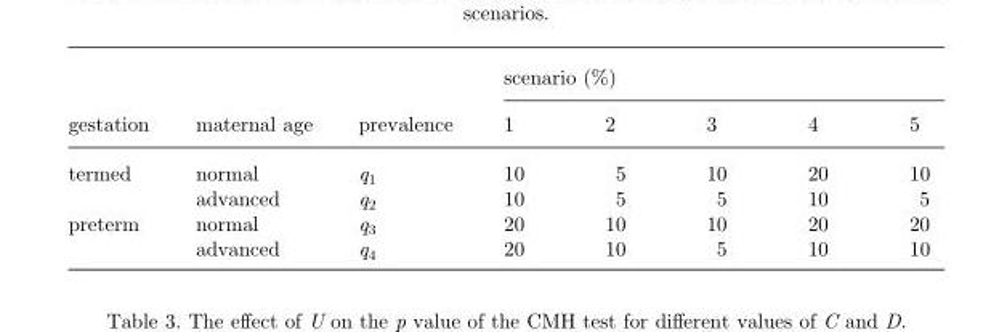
<table><thead><tr><td rowspan="2">gestation</td><td rowspan="2">maternal age</td><td rowspan="2">prevalence</td><td colspan="5">scenario (%)</td></tr><tr><td>1</td><td>2</td><td>3</td><td>4</td><td>5</td></tr></thead><tbody><tr><td rowspan="2">termed</td><td>normal</td><td>q<sub>1</sub></td><td>10</td><td>5</td><td>10</td><td>20</td><td>10</td></tr><tr><td>advanced</td><td>q<sub>2</sub></td><td>10</td><td>5</td><td>5</td><td>10</td><td>5</td></tr><tr><td rowspan="2">preterm</td><td>normal</td><td>q<sub>3</sub></td><td>20</td><td>10</td><td>10</td><td>20</td><td>20</td></tr><tr><td>advanced</td><td>q<sub>4</sub></td><td>20</td><td>10</td><td>5</td><td>10</td><td>10</td></tr></tbody></table>